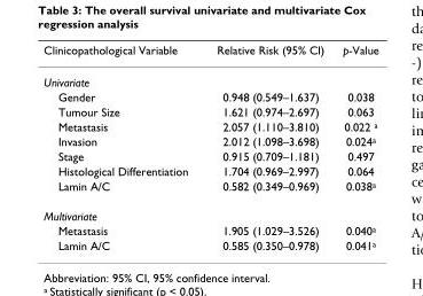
<table><thead><tr><td>Clinicopathological Variable</td><td>Relative Risk (95% CI)</td><td>p-Value</td></tr></thead><tbody><tr><td colspan="3">Univariate</td></tr><tr><td>Gender</td><td>0.948 (0.549–1.637)</td><td>0.038</td></tr><tr><td>Tumour Size</td><td>1.621 (0.974–2.697)</td><td>0.063</td></tr><tr><td>Metastasis</td><td>2.057 (1.110–3.810)</td><td>0.022 <sup>a</sup></td></tr><tr><td>Invasion</td><td>2.012 (1.098–3.698)</td><td>0.024<sup>a</sup></td></tr><tr><td>Stage</td><td>0.915 (0.709–1.181)</td><td>0.497</td></tr><tr><td>Histological Differentiation</td><td>1.704 (0.969–2.997)</td><td>0.064</td></tr><tr><td>Lamin A/C</td><td>0.582 (0.349–0.969)</td><td>0.038<sup>a</sup></td></tr><tr><td colspan="3">Multivariate</td></tr><tr><td>Metastasis</td><td>1.905 (1.029–3.526)</td><td>0.040<sup>a</sup></td></tr><tr><td>Lamin A/C</td><td>0.585 (0.350–0.978)</td><td>0.041<sup>a</sup></td></tr></tbody></table>